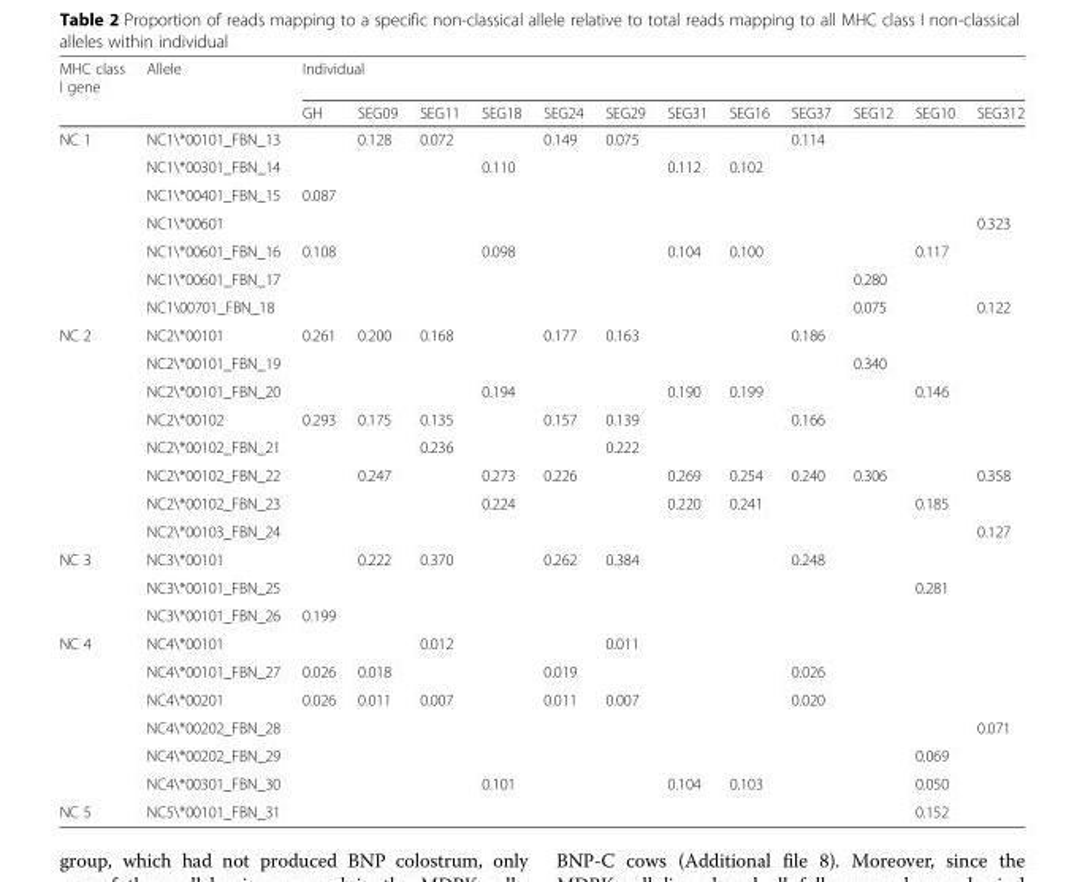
<table><thead><tr><td rowspan="2">MHC class I gene</td><td rowspan="2">Allele</td><td colspan="12">Individual</td></tr><tr><td>GH</td><td>SEG09</td><td>SEG11</td><td>SEG18</td><td>SEG24</td><td>SEG29</td><td>SEG31</td><td>SEG16</td><td>SEG37</td><td>SEG12</td><td>SEG10</td><td>SEG312</td></tr></thead><tbody><tr><td rowspan="7">NC 1</td><td>NC1\*00101_FBN_13</td><td></td><td>0.128</td><td>0.072</td><td></td><td>0.149</td><td>0.075</td><td></td><td></td><td>0.114</td><td></td><td></td><td></td></tr><tr><td>NC1\*00301_FBN_14</td><td></td><td></td><td></td><td>0.110</td><td></td><td></td><td>0.112</td><td>0.102</td><td></td><td></td><td></td><td></td></tr><tr><td>NC1\*00401_FBN_15</td><td>0.087</td><td></td><td></td><td></td><td></td><td></td><td></td><td></td><td></td><td></td><td></td><td></td></tr><tr><td>NC1\*00601</td><td></td><td></td><td></td><td></td><td></td><td></td><td></td><td></td><td></td><td></td><td></td><td>0.323</td></tr><tr><td>NC1\*00601_FBN_16</td><td>0.108</td><td></td><td></td><td>0.098</td><td></td><td></td><td>0.104</td><td>0.100</td><td></td><td></td><td>0.117</td><td></td></tr><tr><td>NC1\*00601_FBN_17</td><td></td><td></td><td></td><td></td><td></td><td></td><td></td><td></td><td></td><td>0.280</td><td></td><td></td></tr><tr><td>NC1\00701_FBN_18</td><td></td><td></td><td></td><td></td><td></td><td></td><td></td><td></td><td></td><td>0.075</td><td></td><td>0.122</td></tr><tr><td rowspan="8">NC 2</td><td>NC2\*00101</td><td>0.261</td><td>0.200</td><td>0.168</td><td></td><td>0.177</td><td>0.163</td><td></td><td></td><td>0.186</td><td></td><td></td><td></td></tr><tr><td>NC2\*00101_FBN_19</td><td></td><td></td><td></td><td></td><td></td><td></td><td></td><td></td><td></td><td>0.340</td><td></td><td></td></tr><tr><td>NC2\*00101_FBN_20</td><td></td><td></td><td></td><td>0.194</td><td></td><td></td><td>0.190</td><td>0.199</td><td></td><td></td><td>0.146</td><td></td></tr><tr><td>NC2\*00102</td><td>0.293</td><td>0.175</td><td>0.135</td><td></td><td>0.157</td><td>0.139</td><td></td><td></td><td>0.166</td><td></td><td></td><td></td></tr><tr><td>NC2\*00102_FBN_21</td><td></td><td></td><td>0.236</td><td></td><td></td><td>0.222</td><td></td><td></td><td></td><td></td><td></td><td></td></tr><tr><td>NC2\*00102_FBN_22</td><td></td><td>0.247</td><td></td><td>0.273</td><td>0.226</td><td></td><td>0.269</td><td>0.254</td><td>0.240</td><td>0.306</td><td></td><td>0.358</td></tr><tr><td>NC2\*00102_FBN_23</td><td></td><td></td><td></td><td>0.224</td><td></td><td></td><td>0.220</td><td>0.241</td><td></td><td></td><td>0.185</td><td></td></tr><tr><td>NC2\*00103_FBN_24</td><td></td><td></td><td></td><td></td><td></td><td></td><td></td><td></td><td></td><td></td><td></td><td>0.127</td></tr><tr><td rowspan="3">NC 3</td><td>NC3\*00101</td><td></td><td>0.222</td><td>0.370</td><td></td><td>0.262</td><td>0.384</td><td></td><td></td><td>0.248</td><td></td><td></td><td></td></tr><tr><td>NC3\*00101_FBN_25</td><td></td><td></td><td></td><td></td><td></td><td></td><td></td><td></td><td></td><td></td><td>0.281</td><td></td></tr><tr><td>NC3\*00101_FBN_26</td><td>0.199</td><td></td><td></td><td></td><td></td><td></td><td></td><td></td><td></td><td></td><td></td><td></td></tr><tr><td rowspan="6">NC 4</td><td>NC4\*00101</td><td></td><td></td><td>0.012</td><td></td><td></td><td>0.011</td><td></td><td></td><td></td><td></td><td></td><td></td></tr><tr><td>NC4\*00101_FBN_27</td><td>0.026</td><td>0.018</td><td></td><td></td><td>0.019</td><td></td><td></td><td></td><td>0.026</td><td></td><td></td><td></td></tr><tr><td>NC4\*00201</td><td>0.026</td><td>0.011</td><td>0.007</td><td></td><td>0.011</td><td>0.007</td><td></td><td></td><td>0.020</td><td></td><td></td><td></td></tr><tr><td>NC4\*00202_FBN_28</td><td></td><td></td><td></td><td></td><td></td><td></td><td></td><td></td><td></td><td></td><td></td><td>0.071</td></tr><tr><td>NC4\*00202_FBN_29</td><td></td><td></td><td></td><td></td><td></td><td></td><td></td><td></td><td></td><td></td><td>0.069</td><td></td></tr><tr><td>NC4\*00301_FBN_30</td><td></td><td></td><td></td><td>0.101</td><td></td><td></td><td>0.104</td><td>0.103</td><td></td><td></td><td>0.050</td><td></td></tr><tr><td>NC 5</td><td>NC5\*00101_FBN_31</td><td></td><td></td><td></td><td></td><td></td><td></td><td></td><td></td><td></td><td></td><td>0.152</td><td></td></tr></tbody></table>